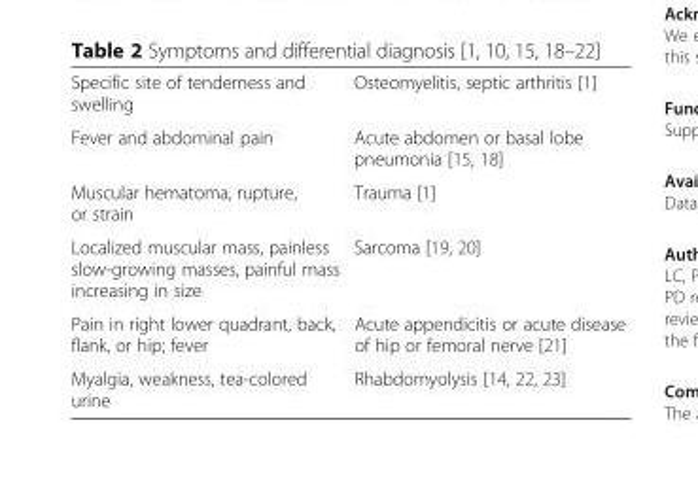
<table><tbody><tr><td>Specific site of tenderness and swelling</td><td>Osteomyelitis, septic arthritis [1]</td></tr><tr><td>Fever and abdominal pain</td><td>Acute abdomen or basal lobe pneumonia [15, 18]</td></tr><tr><td>Muscular hematoma, rupture, or strain</td><td>Trauma [1]</td></tr><tr><td>Localized muscular mass, painless slow-growing masses, painful mass increasing in size</td><td>Sarcoma [19, 20]</td></tr><tr><td>Pain in right lower quadrant, back, flank, or hip; fever</td><td>Acute appendicitis or acute disease of hip or femoral nerve [21]</td></tr><tr><td>Myalgia, weakness, tea-colored urine</td><td>Rhabdomyolysis [14, 22, 23]</td></tr></tbody></table>